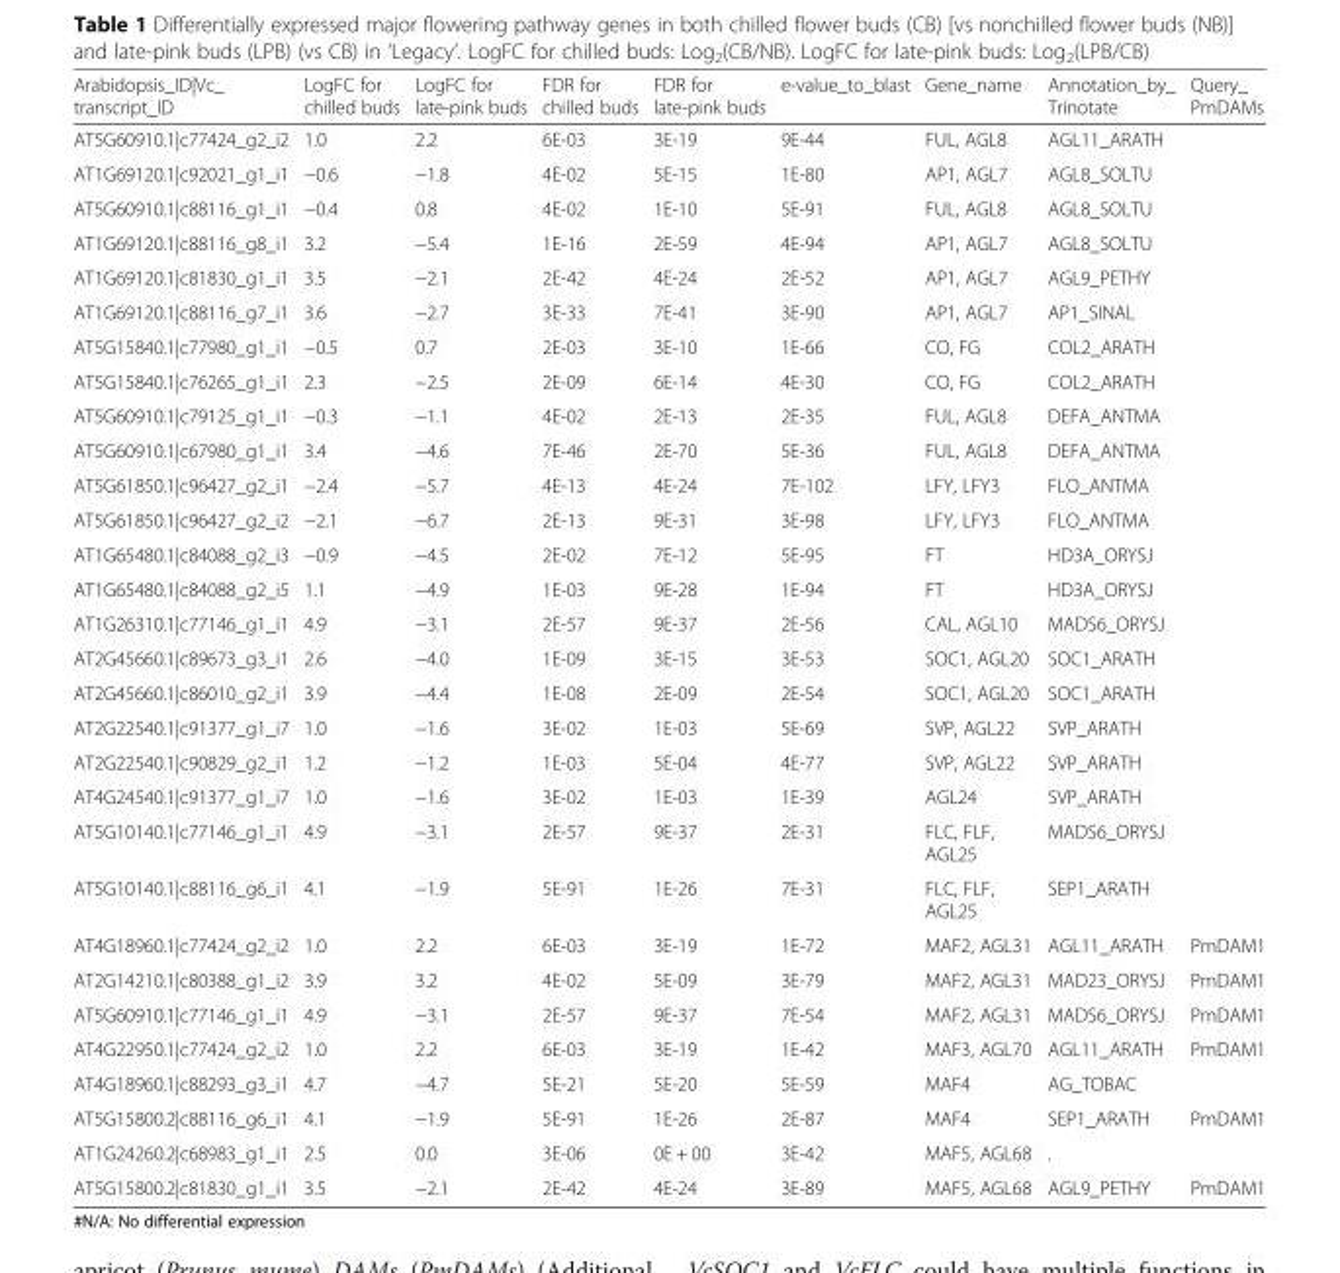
<table><thead><tr><td>Arabidopsis_ID|Vc_ transcript_ID</td><td>LogFC for chilled buds</td><td>LogFC for late-pink buds</td><td>FDR for chilled buds</td><td>FDR for late-pink buds</td><td>e-value_to_blast</td><td>Gene_name</td><td>Annotation_by_ Trinotate</td><td>Query_ PmDAMs</td></tr></thead><tbody><tr><td>AT5G60910.1|c77424_g2_i2</td><td>1.0</td><td>2.2</td><td>6E-03</td><td>3E-19</td><td>9E-44</td><td>FUL, AGL8</td><td>AGL11_ARATH</td><td></td></tr><tr><td>AT1G69120.1|c92021_g1_i1</td><td>−0.6</td><td>−1.8</td><td>4E-02</td><td>5E-15</td><td>1E-80</td><td>AP1, AGL7</td><td>AGL8_SOLTU</td><td></td></tr><tr><td>AT5G60910.1|c88116_g1_i1</td><td>−0.4</td><td>0.8</td><td>4E-02</td><td>1E-10</td><td>5E-91</td><td>FUL, AGL8</td><td>AGL8_SOLTU</td><td></td></tr><tr><td>AT1G69120.1|c88116_g8_i1</td><td>3.2</td><td>−5.4</td><td>1E-16</td><td>2E-59</td><td>4E-94</td><td>AP1, AGL7</td><td>AGL8_SOLTU</td><td></td></tr><tr><td>AT1G69120.1|c81830_g1_i1</td><td>3.5</td><td>−2.1</td><td>2E-42</td><td>4E-24</td><td>2E-52</td><td>AP1, AGL7</td><td>AGL9_PETHY</td><td></td></tr><tr><td>AT1G69120.1|c88116_g7_i1</td><td>3.6</td><td>−2.7</td><td>3E-33</td><td>7E-41</td><td>3E-90</td><td>AP1, AGL7</td><td>AP1_SINAL</td><td></td></tr><tr><td>AT5G15840.1|c77980_g1_i1</td><td>−0.5</td><td>0.7</td><td>2E-03</td><td>3E-10</td><td>1E-66</td><td>CO, FG</td><td>COL2_ARATH</td><td></td></tr><tr><td>AT5G15840.1|c76265_g1_i1</td><td>2.3</td><td>−2.5</td><td>2E-09</td><td>6E-14</td><td>4E-30</td><td>CO, FG</td><td>COL2_ARATH</td><td></td></tr><tr><td>AT5G60910.1|c79125_g1_i1</td><td>−0.3</td><td>−1.1</td><td>4E-02</td><td>2E-13</td><td>2E-35</td><td>FUL, AGL8</td><td>DEFA_ANTMA</td><td></td></tr><tr><td>AT5G60910.1|c67980_g1_i1</td><td>3.4</td><td>−4.6</td><td>7E-46</td><td>2E-70</td><td>5E-36</td><td>FUL, AGL8</td><td>DEFA_ANTMA</td><td></td></tr><tr><td>AT5G61850.1|c96427_g2_i1</td><td>−2.4</td><td>−5.7</td><td>4E-13</td><td>4E-24</td><td>7E-102</td><td>LFY, LFY3</td><td>FLO_ANTMA</td><td></td></tr><tr><td>AT5G61850.1|c96427_g2_i2</td><td>−2.1</td><td>−6.7</td><td>2E-13</td><td>9E-31</td><td>3E-98</td><td>LFY, LFY3</td><td>FLO_ANTMA</td><td></td></tr><tr><td>AT1G65480.1|c84088_g2_i3</td><td>−0.9</td><td>−4.5</td><td>2E-02</td><td>7E-12</td><td>5E-95</td><td>FT</td><td>HD3A_ORYSJ</td><td></td></tr><tr><td>AT1G65480.1|c84088_g2_i5</td><td>1.1</td><td>−4.9</td><td>1E-03</td><td>9E-28</td><td>1E-94</td><td>FT</td><td>HD3A_ORYSJ</td><td></td></tr><tr><td>AT1G26310.1|c77146_g1_i1</td><td>4.9</td><td>−3.1</td><td>2E-57</td><td>9E-37</td><td>2E-56</td><td>CAL, AGL10</td><td>MADS6_ORYSJ</td><td></td></tr><tr><td>AT2G45660.1|c89673_g3_i1</td><td>2.6</td><td>−4.0</td><td>1E-09</td><td>3E-15</td><td>3E-53</td><td>SOC1, AGL20</td><td>SOC1_ARATH</td><td></td></tr><tr><td>AT2G45660.1|c86010_g2_i1</td><td>3.9</td><td>−4.4</td><td>1E-08</td><td>2E-09</td><td>2E-54</td><td>SOC1, AGL20</td><td>SOC1_ARATH</td><td></td></tr><tr><td>AT2G22540.1|c91377_g1_i7</td><td>1.0</td><td>−1.6</td><td>3E-02</td><td>1E-03</td><td>5E-69</td><td>SVP, AGL22</td><td>SVP_ARATH</td><td></td></tr><tr><td>AT2G22540.1|c90829_g2_i1</td><td>1.2</td><td>−1.2</td><td>1E-03</td><td>5E-04</td><td>4E-77</td><td>SVP, AGL22</td><td>SVP_ARATH</td><td></td></tr><tr><td>AT4G24540.1|c91377_g1_i7</td><td>1.0</td><td>−1.6</td><td>3E-02</td><td>1E-03</td><td>1E-39</td><td>AGL24</td><td>SVP_ARATH</td><td></td></tr><tr><td>AT5G10140.1|c77146_g1_i1</td><td>4.9</td><td>−3.1</td><td>2E-57</td><td>9E-37</td><td>2E-31</td><td>FLC, FLF, AGL25</td><td>MADS6_ORYSJ</td><td></td></tr><tr><td>AT5G10140.1|c88116_g6_i1</td><td>4.1</td><td>−1.9</td><td>5E-91</td><td>1E-26</td><td>7E-31</td><td>FLC, FLF, AGL25</td><td>SEP1_ARATH</td><td></td></tr><tr><td>AT4G18960.1|c77424_g2_i2</td><td>1.0</td><td>2.2</td><td>6E-03</td><td>3E-19</td><td>1E-72</td><td>MAF2, AGL31</td><td>AGL11_ARATH</td><td>PmDAM1</td></tr><tr><td>AT2G14210.1|c80388_g1_i2</td><td>3.9</td><td>3.2</td><td>4E-02</td><td>5E-09</td><td>3E-79</td><td>MAF2, AGL31</td><td>MAD23_ORYSJ</td><td>PmDAM1</td></tr><tr><td>AT5G60910.1|c77146_g1_i1</td><td>4.9</td><td>−3.1</td><td>2E-57</td><td>9E-37</td><td>7E-54</td><td>MAF2, AGL31</td><td>MADS6_ORYSJ</td><td>PmDAM1</td></tr><tr><td>AT4G22950.1|c77424_g2_i2</td><td>1.0</td><td>2.2</td><td>6E-03</td><td>3E-19</td><td>1E-42</td><td>MAF3, AGL70</td><td>AGL11_ARATH</td><td>PmDAM1</td></tr><tr><td>AT4G18960.1|c88293_g3_i1</td><td>4.7</td><td>−4.7</td><td>5E-21</td><td>5E-20</td><td>5E-59</td><td>MAF4</td><td>AG_TOBAC</td><td></td></tr><tr><td>AT5G15800.2|c88116_g6_i1</td><td>4.1</td><td>−1.9</td><td>5E-91</td><td>1E-26</td><td>2E-87</td><td>MAF4</td><td>SEP1_ARATH</td><td>PmDAM1</td></tr><tr><td>AT1G24260.2|c68983_g1_i1</td><td>2.5</td><td>0.0</td><td>3E-06</td><td>0E + 00</td><td>3E-42</td><td>MAF5, AGL68</td><td>.</td><td></td></tr><tr><td>AT5G15800.2|c81830_g1_i1</td><td>3.5</td><td>−2.1</td><td>2E-42</td><td>4E-24</td><td>3E-89</td><td>MAF5, AGL68</td><td>AGL9_PETHY</td><td>PmDAM1</td></tr></tbody></table>